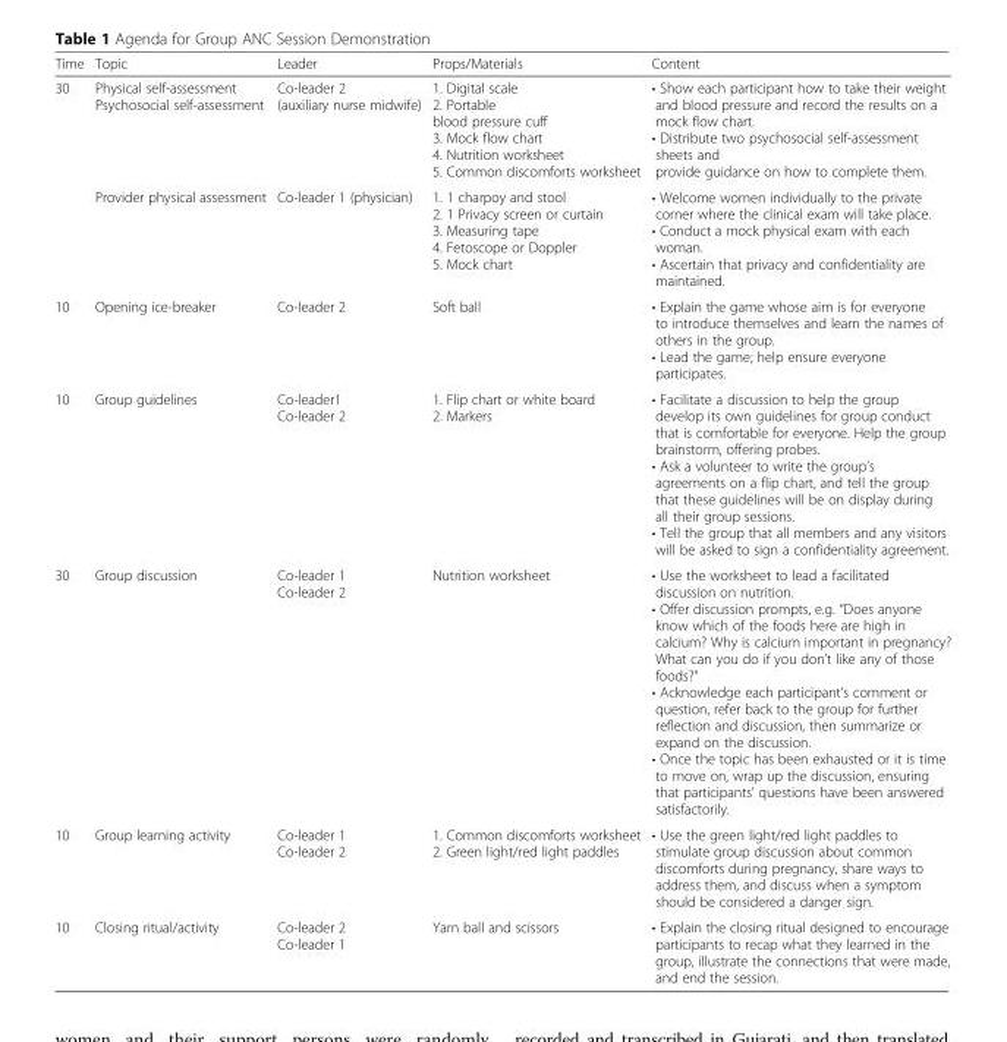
<table><thead><tr><td>Time</td><td>Topic</td><td>Leader</td><td>Props/Materials</td><td>Content</td></tr></thead><tbody><tr><td rowspan="2">30</td><td>Physical self-assessment Psychosocial self-assessment</td><td>Co-leader 2 (auxiliary nurse midwife)</td><td>1. Digital scale 2. Portable blood pressure cuff 3. Mock flow chart 4. Nutrition worksheet 5. Common discomforts worksheet</td><td>• Show each participant how to take their weight and blood pressure and record the results on a mock flow chart. • Distribute two psychosocial self-assessment sheets and provide guidance on how to complete them.</td></tr><tr><td>Provider physical assessment</td><td>Co-leader 1 (physician)</td><td>1. 1 charpoy and stool 2. 1 Privacy screen or curtain 3. Measuring tape 4. Fetoscope or Doppler 5. Mock chart</td><td>• Welcome women individually to the private corner where the clinical exam will take place. • Conduct a mock physical exam with each woman. • Ascertain that privacy and confidentiality are maintained.</td></tr><tr><td>10</td><td>Opening ice-breaker</td><td>Co-leader 2</td><td>Soft ball</td><td>• Explain the game whose aim is for everyone to introduce themselves and learn the names of others in the group. • Lead the game; help ensure everyone participates.</td></tr><tr><td>10</td><td>Group guidelines</td><td>Co-leader1 Co-leader 2</td><td>1. Flip chart or white board 2. Markers</td><td>• Facilitate a discussion to help the group develop its own guidelines for group conduct that is comfortable for everyone. Help the group brainstorm, offering probes. • Ask a volunteer to write the group’s agreements on a flip chart, and tell the group that these guidelines will be on display during all their group sessions. • Tell the group that all members and any visitors will be asked to sign a confidentiality agreement.</td></tr><tr><td>30</td><td>Group discussion</td><td>Co-leader 1 Co-leader 2</td><td>Nutrition worksheet</td><td>• Use the worksheet to lead a facilitated discussion on nutrition. • Offer discussion prompts, e.g. “Does anyone know which of the foods here are high in calcium? Why is calcium important in pregnancy? What can you do if you don’t like any of those foods?” • Acknowledge each participant’s comment or question, refer back to the group for further reflection and discussion, then summarize or expand on the discussion. • Once the topic has been exhausted or it is time to move on, wrap up the discussion, ensuring that participants’ questions have been answered satisfactorily.</td></tr><tr><td>10</td><td>Group learning activity</td><td>Co-leader 1 Co-leader 2</td><td>1. Common discomforts worksheet 2. Green light/red light paddles</td><td>• Use the green light/red light paddles to stimulate group discussion about common discomforts during pregnancy, share ways to address them, and discuss when a symptom should be considered a danger sign.</td></tr><tr><td>10</td><td>Closing ritual/activity</td><td>Co-leader 2 Co-leader 1</td><td>Yarn ball and scissors</td><td>• Explain the closing ritual designed to encourage participants to recap what they learned in the group, illustrate the connections that were made, and end the session.</td></tr></tbody></table>